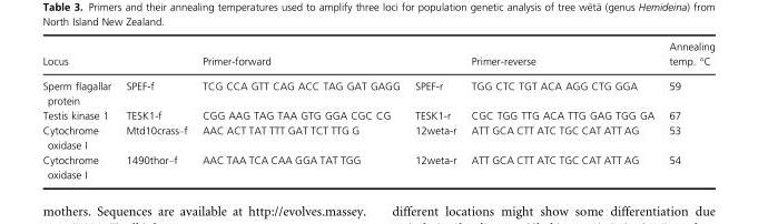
<table><thead><tr><td>Locus</td><td></td><td>Primer-forward</td><td></td><td>Primer-reverse</td><td>Annealing temp. °C</td></tr></thead><tbody><tr><td>Sperm flagallar protein</td><td>SPEF-f</td><td>TCG CCA GTT CAG ACC TAG GAT GAGG</td><td>SPEF-r</td><td>TGG CTC TGT ACA AGG CTG GGA</td><td>59</td></tr><tr><td>Testis kinase 1</td><td>TESK1-f</td><td>CGG AAG TAG TAA GTG GGA CGC CG</td><td>TESK1-r</td><td>CGC TGG TTG ACA TTG GAG TGG GA</td><td>67</td></tr><tr><td>Cytochrome oxidase I</td><td>Mtd10crass–f</td><td>AAC ACT TAT TTT GAT TCT TTG G</td><td>12weta-r</td><td>ATT GCA CTT ATC TGC CAT ATT AG</td><td>53</td></tr><tr><td>Cytochrome oxidase I</td><td>1490thor–f</td><td>AAC TAA TCA CAA GGA TAT TGG</td><td>12weta-r</td><td>ATT GCA CTT ATC TGC CAT ATT AG</td><td>54</td></tr></tbody></table>